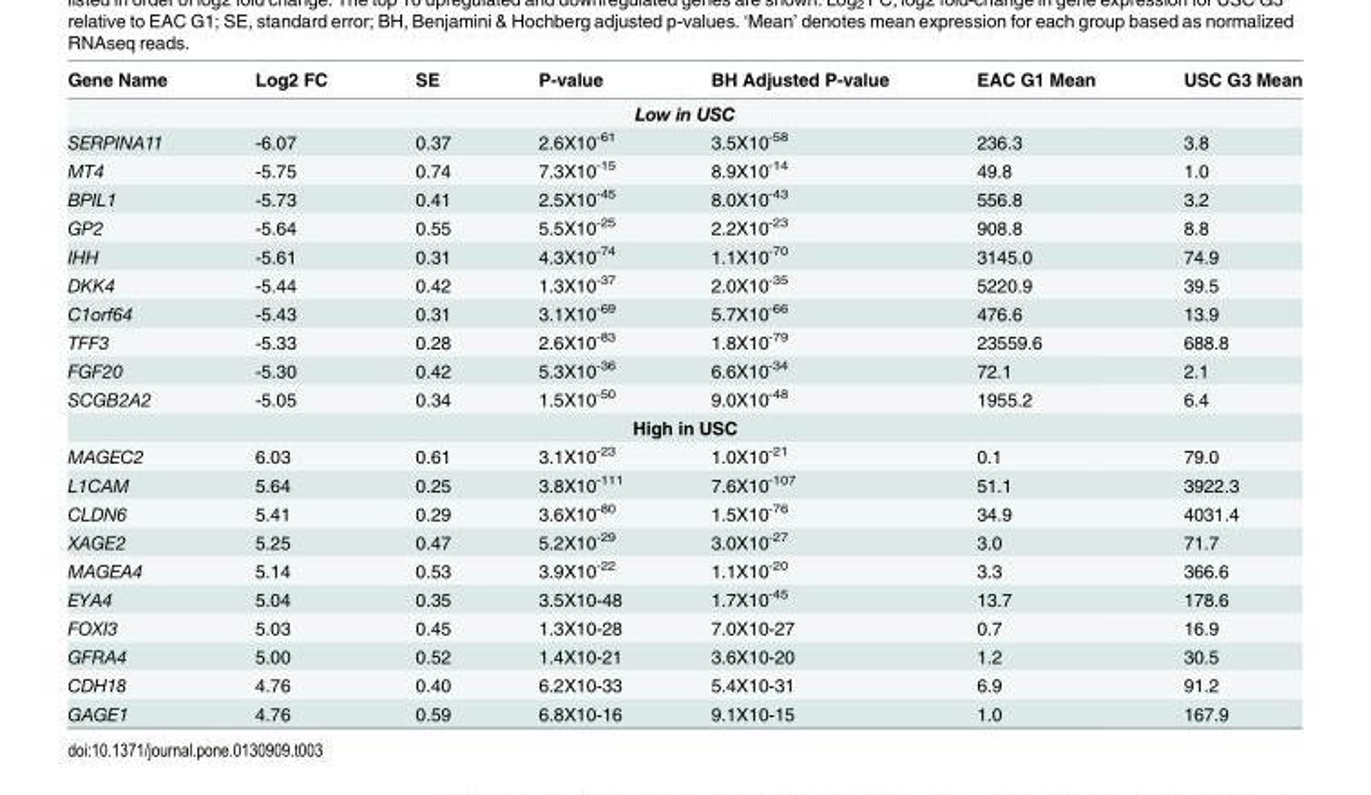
<table><thead><tr><td>Gene Name</td><td>Log2 FC</td><td>SE</td><td>P-value</td><td>BH Adjusted P-value</td><td>EAC G1 Mean</td><td>USC G3 Mean</td></tr></thead><tbody><tr><td colspan="7">Low in USC</td></tr><tr><td>SERPINA11</td><td>-6.07</td><td>0.37</td><td>2.6X10<sup>-61</sup></td><td>3.5X10<sup>-58</sup></td><td>236.3</td><td>3.8</td></tr><tr><td>MT4</td><td>-5.75</td><td>0.74</td><td>7.3X10<sup>-15</sup></td><td>8.9X10<sup>-14</sup></td><td>49.8</td><td>1.0</td></tr><tr><td>BPIL1</td><td>-5.73</td><td>0.41</td><td>2.5X10<sup>-45</sup></td><td>8.0X10<sup>-43</sup></td><td>556.8</td><td>3.2</td></tr><tr><td>GP2</td><td>-5.64</td><td>0.55</td><td>5.5X10<sup>-25</sup></td><td>2.2X10<sup>-23</sup></td><td>908.8</td><td>8.8</td></tr><tr><td>IHH</td><td>-5.61</td><td>0.31</td><td>4.3X10<sup>-74</sup></td><td>1.1X10<sup>-70</sup></td><td>3145.0</td><td>74.9</td></tr><tr><td>DKK4</td><td>-5.44</td><td>0.42</td><td>1.3X10<sup>-37</sup></td><td>2.0X10<sup>-35</sup></td><td>5220.9</td><td>39.5</td></tr><tr><td>C1orf64</td><td>-5.43</td><td>0.31</td><td>3.1X10<sup>-69</sup></td><td>5.7X10<sup>-66</sup></td><td>476.6</td><td>13.9</td></tr><tr><td>TFF3</td><td>-5.33</td><td>0.28</td><td>2.6X10<sup>-83</sup></td><td>1.8X10<sup>-79</sup></td><td>23559.6</td><td>688.8</td></tr><tr><td>FGF20</td><td>-5.30</td><td>0.42</td><td>5.3X10<sup>-36</sup></td><td>6.6X10<sup>-34</sup></td><td>72.1</td><td>2.1</td></tr><tr><td>SCGB2A2</td><td>-5.05</td><td>0.34</td><td>1.5X10<sup>-50</sup></td><td>9.0X10<sup>-48</sup></td><td>1955.2</td><td>6.4</td></tr><tr><td colspan="7">High in USC</td></tr><tr><td>MAGEC2</td><td>6.03</td><td>0.61</td><td>3.1X10<sup>-23</sup></td><td>1.0X10<sup>-21</sup></td><td>0.1</td><td>79.0</td></tr><tr><td>L1CAM</td><td>5.64</td><td>0.25</td><td>3.8X10<sup>-111</sup></td><td>7.6X10<sup>-107</sup></td><td>51.1</td><td>3922.3</td></tr><tr><td>CLDN6</td><td>5.41</td><td>0.29</td><td>3.6X10<sup>-80</sup></td><td>1.5X10<sup>-76</sup></td><td>34.9</td><td>4031.4</td></tr><tr><td>XAGE2</td><td>5.25</td><td>0.47</td><td>5.2X10<sup>-29</sup></td><td>3.0X10<sup>-27</sup></td><td>3.0</td><td>71.7</td></tr><tr><td>MAGEA4</td><td>5.14</td><td>0.53</td><td>3.9X10<sup>-22</sup></td><td>1.1X10<sup>-20</sup></td><td>3.3</td><td>366.6</td></tr><tr><td>EYA4</td><td>5.04</td><td>0.35</td><td>3.5X10-48</td><td>1.7X10<sup>-45</sup></td><td>13.7</td><td>178.6</td></tr><tr><td>FOXI3</td><td>5.03</td><td>0.45</td><td>1.3X10-28</td><td>7.0X10-27</td><td>0.7</td><td>16.9</td></tr><tr><td>GFRA4</td><td>5.00</td><td>0.52</td><td>1.4X10-21</td><td>3.6X10-20</td><td>1.2</td><td>30.5</td></tr><tr><td>CDH18</td><td>4.76</td><td>0.40</td><td>6.2X10-33</td><td>5.4X10-31</td><td>6.9</td><td>91.2</td></tr><tr><td>GAGE1</td><td>4.76</td><td>0.59</td><td>6.8X10-16</td><td>9.1X10-15</td><td>1.0</td><td>167.9</td></tr></tbody></table>